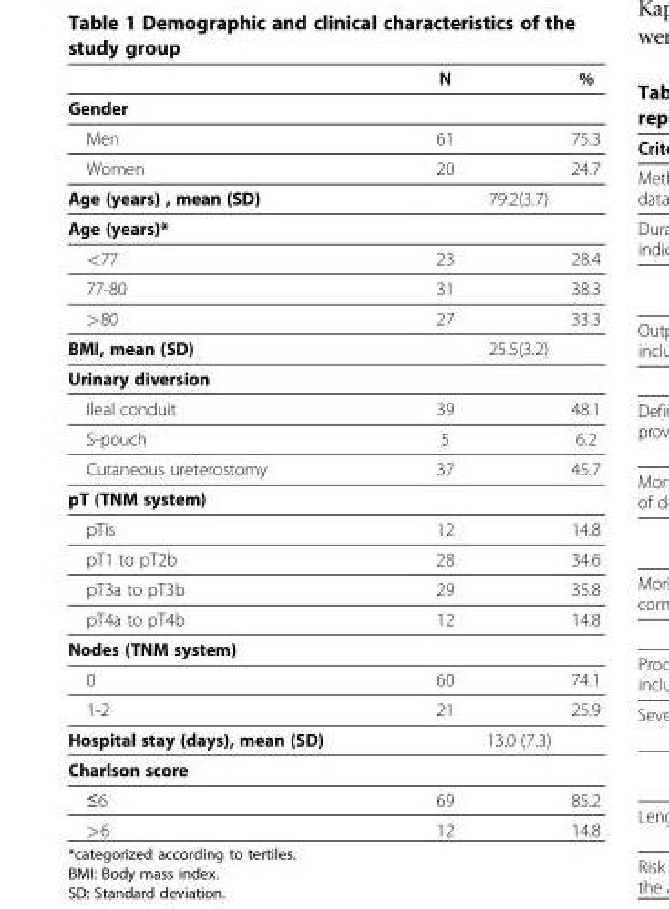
<table><thead><tr><td></td><td>N</td><td>%</td></tr></thead><tbody><tr><td colspan="3">Gender</td></tr><tr><td>Men</td><td>61</td><td>75.3</td></tr><tr><td>Women</td><td>20</td><td>24.7</td></tr><tr><td>Age (years) , mean (SD)</td><td colspan="2">79.2(3.7)</td></tr><tr><td colspan="3">Age (years)*</td></tr><tr><td>&lt;77</td><td>23</td><td>28.4</td></tr><tr><td>77-80</td><td>31</td><td>38.3</td></tr><tr><td>&gt;80</td><td>27</td><td>33.3</td></tr><tr><td>BMI, mean (SD)</td><td colspan="2">25.5(3.2)</td></tr><tr><td colspan="3">Urinary diversion</td></tr><tr><td>Ileal conduit</td><td>39</td><td>48.1</td></tr><tr><td>S-pouch</td><td>5</td><td>6.2</td></tr><tr><td>Cutaneous ureterostomy</td><td>37</td><td>45.7</td></tr><tr><td colspan="3">pT (TNM system)</td></tr><tr><td>pTis</td><td>12</td><td>14.8</td></tr><tr><td>pT1 to pT2b</td><td>28</td><td>34.6</td></tr><tr><td>pT3a to pT3b</td><td>29</td><td>35.8</td></tr><tr><td>pT4a to pT4b</td><td>12</td><td>14.8</td></tr><tr><td colspan="3">Nodes (TNM system)</td></tr><tr><td>0</td><td>60</td><td>74.1</td></tr><tr><td>1-2</td><td>21</td><td>25.9</td></tr><tr><td>Hospital stay (days), mean (SD)</td><td colspan="2">13.0 (7.3)</td></tr><tr><td colspan="3">Charlson score</td></tr><tr><td>≤6</td><td>69</td><td>85.2</td></tr><tr><td>&gt;6</td><td>12</td><td>14.8</td></tr></tbody></table>